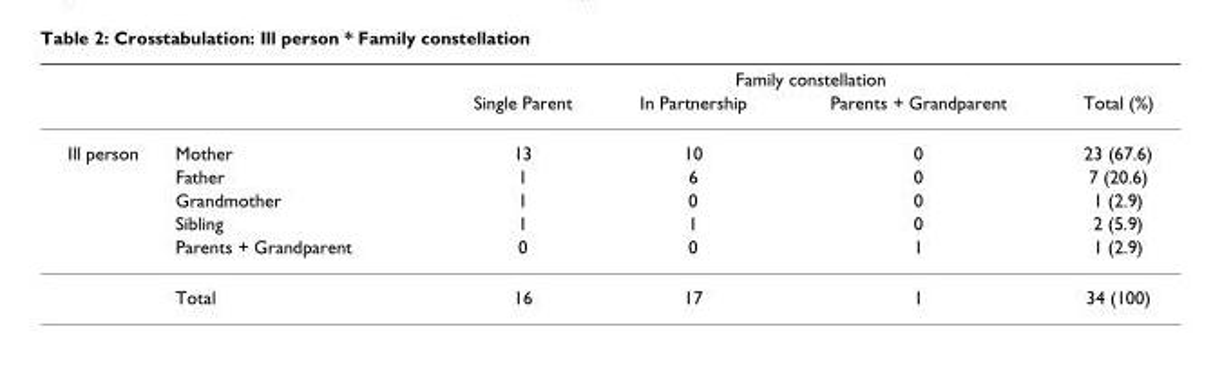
<table><thead><tr><td rowspan="2"></td><td rowspan="2"></td><td colspan="4">Family constellation</td></tr><tr><td>Single Parent</td><td>In Partnership</td><td>Parents + Grandparent</td><td>Total (%)</td></tr></thead><tbody><tr><td rowspan="6">Ill person</td><td>Mother</td><td>13</td><td>10</td><td>0</td><td>23 (67.6)</td></tr><tr><td>Father</td><td>1</td><td>6</td><td>0</td><td>7 (20.6)</td></tr><tr><td>Grandmother</td><td>1</td><td>0</td><td>0</td><td>1 (2.9)</td></tr><tr><td>Sibling</td><td>1</td><td>1</td><td>0</td><td>2 (5.9)</td></tr><tr><td>Parents + Grandparent</td><td>0</td><td>0</td><td>1</td><td>1 (2.9)</td></tr><tr><td>Total</td><td>16</td><td>17</td><td>1</td><td>34 (100)</td></tr></tbody></table>